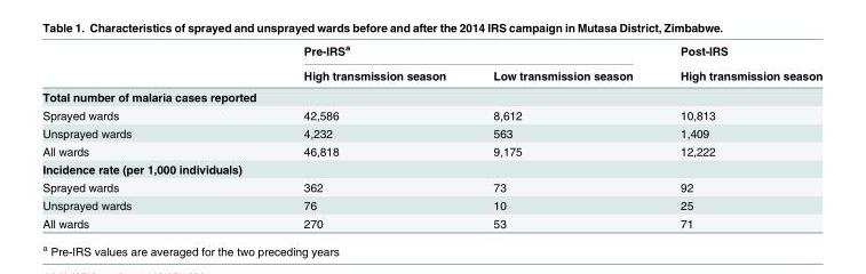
<table><thead><tr><td rowspan="2"></td><td colspan="2">Pre-IRS<sup>a</sup></td><td rowspan="2">Post-IRS High transmission season</td></tr><tr><td>High transmission season</td><td>Low transmission season</td></tr></thead><tbody><tr><td colspan="4">Total number of malaria cases reported</td></tr><tr><td>Sprayed wards</td><td>42,586</td><td>8,612</td><td>10,813</td></tr><tr><td>Unsprayed wards</td><td>4,232</td><td>563</td><td>1,409</td></tr><tr><td>All wards</td><td>46,818</td><td>9,175</td><td>12,222</td></tr><tr><td colspan="4">Incidence rate (per 1,000 individuals)</td></tr><tr><td>Sprayed wards</td><td>362</td><td>73</td><td>92</td></tr><tr><td>Unsprayed wards</td><td>76</td><td>10</td><td>25</td></tr><tr><td>All wards</td><td>270</td><td>53</td><td>71</td></tr></tbody></table>